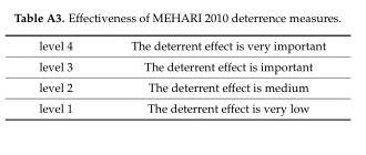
<table><tbody><tr><td>level 4</td><td>The deterrent effect is very important</td></tr><tr><td>level 3</td><td>The deterrent effect is important</td></tr><tr><td>level 2</td><td>The deterrent effect is medium</td></tr><tr><td>level 1</td><td>The deterrent effect is very low</td></tr></tbody></table>